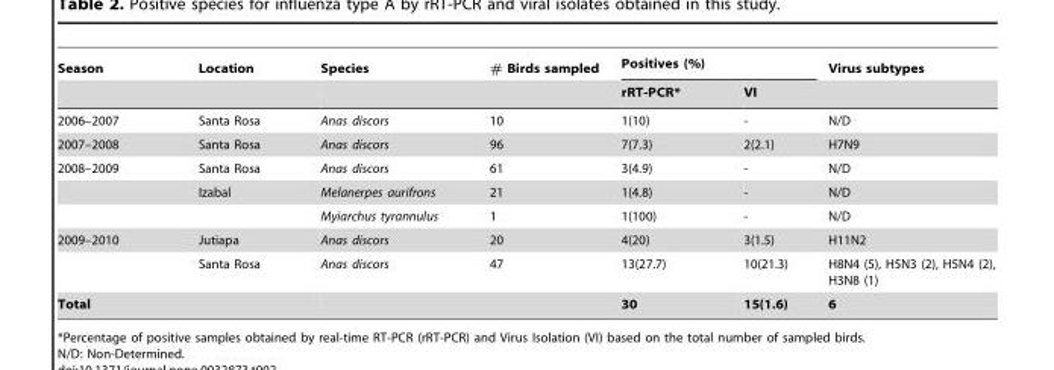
<table><thead><tr><td rowspan="2">Season</td><td rowspan="2">Location</td><td rowspan="2">Species</td><td rowspan="2"># Birds sampled</td><td colspan="2">Positives (%)</td><td rowspan="2">Virus subtypes</td></tr><tr><td>rRT-PCR*</td><td>VI</td></tr></thead><tbody><tr><td>2006–2007</td><td>Santa Rosa</td><td>Anas discors</td><td>10</td><td>1(10)</td><td>-</td><td>N/D</td></tr><tr><td>2007–2008</td><td>Santa Rosa</td><td>Anas discors</td><td>96</td><td>7(7.3)</td><td>2(2.1)</td><td>H7N9</td></tr><tr><td rowspan="3">2008–2009</td><td>Santa Rosa</td><td>Anas discors</td><td>61</td><td>3(4.9)</td><td>-</td><td>N/D</td></tr><tr><td>Izabal</td><td>Melanerpes aurifrons</td><td>21</td><td>1(4.8)</td><td>-</td><td>N/D</td></tr><tr><td></td><td>Myiarchus tyrannulus</td><td>1</td><td>1(100)</td><td>-</td><td>N/D</td></tr><tr><td rowspan="2">2009–2010</td><td>Jutiapa</td><td>Anas discors</td><td>20</td><td>4(20)</td><td>3(1.5)</td><td>H11N2</td></tr><tr><td>Santa Rosa</td><td>Anas discors</td><td>47</td><td>13(27.7)</td><td>10(21.3)</td><td>H8N4 (5), H5N3 (2), H5N4 (2), H3N8 (1)</td></tr><tr><td>Total</td><td></td><td></td><td></td><td>30</td><td>15(1.6)</td><td>6</td></tr></tbody></table>